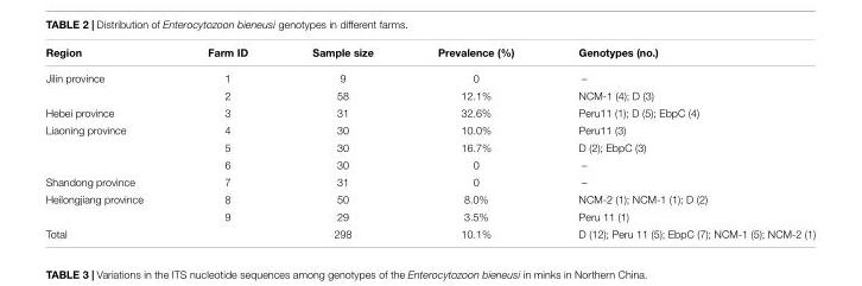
<table><thead><tr><td>Region</td><td>Farm ID</td><td>Sample size</td><td>Prevalence (%)</td><td>Genotypes (no.)</td></tr></thead><tbody><tr><td rowspan="2">Jilin province</td><td>1</td><td>9</td><td>0</td><td>–</td></tr><tr><td>2</td><td>58</td><td>12.1%</td><td>NCM-1 (4); D (3)</td></tr><tr><td>Hebei province</td><td>3</td><td>31</td><td>32.6%</td><td>Peru11 (1); D (5); EbpC (4)</td></tr><tr><td rowspan="3">Liaoning province</td><td>4</td><td>30</td><td>10.0%</td><td>Peru11 (3)</td></tr><tr><td>5</td><td>30</td><td>16.7%</td><td>D (2); EbpC (3)</td></tr><tr><td>6</td><td>30</td><td>0</td><td>–</td></tr><tr><td>Shandong province</td><td>7</td><td>31</td><td>0</td><td>–</td></tr><tr><td rowspan="2">Heilongjiang province</td><td>8</td><td>50</td><td>8.0%</td><td>NCM-2 (1); NCM-1 (1); D (2)</td></tr><tr><td>9</td><td>29</td><td>3.5%</td><td>Peru 11 (1)</td></tr><tr><td>Total</td><td></td><td>298</td><td>10.1%</td><td>D (12); Peru 11 (5); EbpC (7); NCM-1 (5); NCM-2 (1)</td></tr></tbody></table>